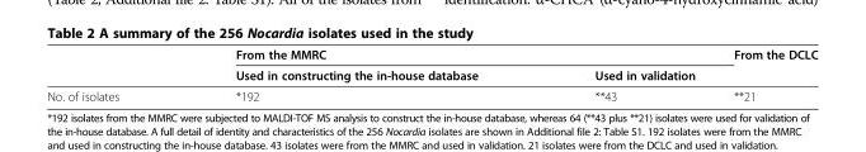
<table><thead><tr><td rowspan="3">No. of isolates</td><td colspan="2">From the MMRC</td><td>From the DCLC</td></tr><tr><td rowspan="2">Used in constructing the in-house database *192</td><td colspan="2">Used in validation</td></tr><tr><td>**43</td><td>**21</td></tr></thead><tbody></tbody></table>